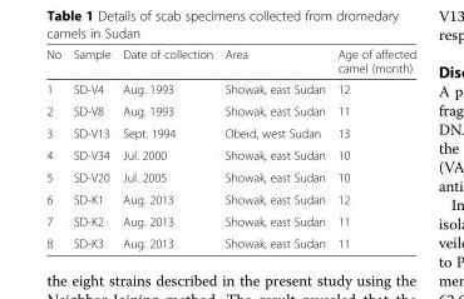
<table><thead><tr><td>No</td><td>Sample</td><td>Date of collection</td><td>Area</td><td>Age of affected camel (month)</td></tr></thead><tbody><tr><td>1</td><td>SD-V4</td><td>Aug. 1993</td><td>Showak, east Sudan</td><td>12</td></tr><tr><td>2</td><td>SD-V8</td><td>Aug. 1993</td><td>Showak, east Sudan</td><td>11</td></tr><tr><td>3</td><td>SD-V13</td><td>Sept. 1994</td><td>Obeid, west Sudan</td><td>13</td></tr><tr><td>4</td><td>SD-V34</td><td>Jul. 2000</td><td>Showak, east Sudan</td><td>10</td></tr><tr><td>5</td><td>SD-V20</td><td>Jul. 2005</td><td>Showak, east Sudan</td><td>10</td></tr><tr><td>6</td><td>SD-K1</td><td>Aug. 2013</td><td>Showak, east Sudan</td><td>12</td></tr><tr><td>7</td><td>SD-K2</td><td>Aug. 2013</td><td>Showak, east Sudan</td><td>11</td></tr><tr><td>8</td><td>SD-K3</td><td>Aug. 2013</td><td>Showak, east Sudan</td><td>11</td></tr></tbody></table>